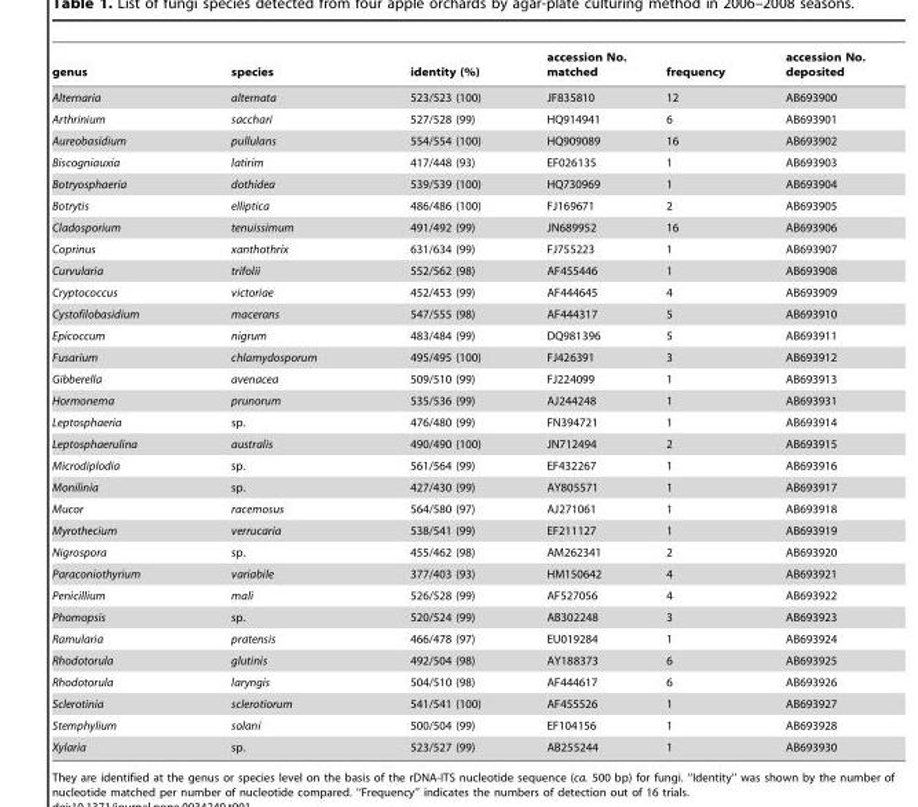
<table><thead><tr><td>genus</td><td>species</td><td>identity (%)</td><td>accession No. matched</td><td>frequency</td><td>accession No. deposited</td></tr></thead><tbody><tr><td>Alternaria</td><td>alternata</td><td>523/523 (100)</td><td>JF835810</td><td>12</td><td>AB693900</td></tr><tr><td>Arthrinium</td><td>sacchari</td><td>527/528 (99)</td><td>HQ914941</td><td>6</td><td>AB693901</td></tr><tr><td>Aureobasidium</td><td>pullulans</td><td>554/554 (100)</td><td>HQ909089</td><td>16</td><td>AB693902</td></tr><tr><td>Biscogniauxia</td><td>latirim</td><td>417/448 (93)</td><td>EF026135</td><td>1</td><td>AB693903</td></tr><tr><td>Botryosphaeria</td><td>dothidea</td><td>539/539 (100)</td><td>HQ730969</td><td>1</td><td>AB693904</td></tr><tr><td>Botrytis</td><td>elliptica</td><td>486/486 (100)</td><td>FJ169671</td><td>2</td><td>AB693905</td></tr><tr><td>Cladosporium</td><td>tenuissimum</td><td>491/492 (99)</td><td>JN689952</td><td>16</td><td>AB693906</td></tr><tr><td>Coprinus</td><td>xanthothrix</td><td>631/634 (99)</td><td>FJ755223</td><td>1</td><td>AB693907</td></tr><tr><td>Curvularia</td><td>trifolii</td><td>552/562 (98)</td><td>AF455446</td><td>1</td><td>AB693908</td></tr><tr><td>Cryptococcus</td><td>victoriae</td><td>452/453 (99)</td><td>AF444645</td><td>4</td><td>AB693909</td></tr><tr><td>Cystofilobasidium</td><td>macerans</td><td>547/555 (98)</td><td>AF444317</td><td>5</td><td>AB693910</td></tr><tr><td>Epicoccum</td><td>nigrum</td><td>483/484 (99)</td><td>DQ981396</td><td>5</td><td>AB693911</td></tr><tr><td>Fusarium</td><td>chlamydosporum</td><td>495/495 (100)</td><td>FJ426391</td><td>3</td><td>AB693912</td></tr><tr><td>Gibberella</td><td>avenacea</td><td>509/510 (99)</td><td>FJ224099</td><td>1</td><td>AB693913</td></tr><tr><td>Hormonema</td><td>prunorum</td><td>535/536 (99)</td><td>AJ244248</td><td>1</td><td>AB693931</td></tr><tr><td>Leptosphaeria</td><td>sp.</td><td>476/480 (99)</td><td>FN394721</td><td>1</td><td>AB693914</td></tr><tr><td>Leptosphaerulina</td><td>australis</td><td>490/490 (100)</td><td>JN712494</td><td>2</td><td>AB693915</td></tr><tr><td>Microdiplodia</td><td>sp.</td><td>561/564 (99)</td><td>EF432267</td><td>1</td><td>AB693916</td></tr><tr><td>Monilinia</td><td>sp.</td><td>427/430 (99)</td><td>AY805571</td><td>1</td><td>AB693917</td></tr><tr><td>Mucor</td><td>racemosus</td><td>564/580 (97)</td><td>AJ271061</td><td>1</td><td>AB693918</td></tr><tr><td>Myrothecium</td><td>verrucaria</td><td>538/541 (99)</td><td>EF211127</td><td>1</td><td>AB693919</td></tr><tr><td>Nigrospora</td><td>sp.</td><td>455/462 (98)</td><td>AM262341</td><td>2</td><td>AB693920</td></tr><tr><td>Paraconiothyrium</td><td>variabile</td><td>377/403 (93)</td><td>HM150642</td><td>4</td><td>AB693921</td></tr><tr><td>Penicillium</td><td>mali</td><td>526/528 (99)</td><td>AF527056</td><td>4</td><td>AB693922</td></tr><tr><td>Phomopsis</td><td>sp.</td><td>520/524 (99)</td><td>AB302248</td><td>3</td><td>AB693923</td></tr><tr><td>Ramularia</td><td>pratensis</td><td>466/478 (97)</td><td>EU019284</td><td>1</td><td>AB693924</td></tr><tr><td>Rhodotorula</td><td>glutinis</td><td>492/504 (98)</td><td>AY188373</td><td>6</td><td>AB693925</td></tr><tr><td>Rhodotorula</td><td>laryngis</td><td>504/510 (98)</td><td>AF444617</td><td>6</td><td>AB693926</td></tr><tr><td>Sclerotinia</td><td>sclerotiorum</td><td>541/541 (100)</td><td>AF455526</td><td>1</td><td>AB693927</td></tr><tr><td>Stemphylium</td><td>solani</td><td>500/504 (99)</td><td>EF104156</td><td>1</td><td>AB693928</td></tr><tr><td>Xylaria</td><td>sp.</td><td>523/527 (99)</td><td>AB255244</td><td>1</td><td>AB693930</td></tr></tbody></table>